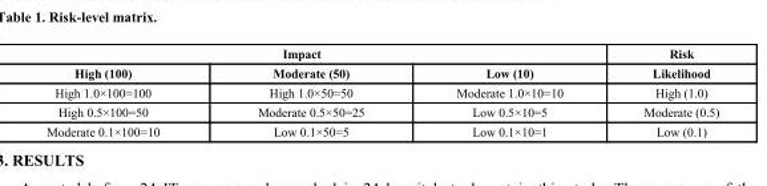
<table><thead><tr><td colspan="3">Impact</td><td rowspan="2">Risk Likelihood</td></tr><tr><td>High (100)</td><td>Moderate (50)</td><td>Low (10)</td></tr></thead><tbody><tr><td>High 1.0×100=100</td><td>High 1.0×50=50</td><td>Moderate 1.0×10=10</td><td>High (1.0)</td></tr><tr><td>High 0.5×100=50</td><td>Moderate 0.5×50=25</td><td>Low 0.5×10=5</td><td>Moderate (0.5)</td></tr><tr><td>Moderate 0.1×100=10</td><td>Low 0.1×50=5</td><td>Low 0.1×10=1</td><td>Low (0.1)</td></tr></tbody></table>